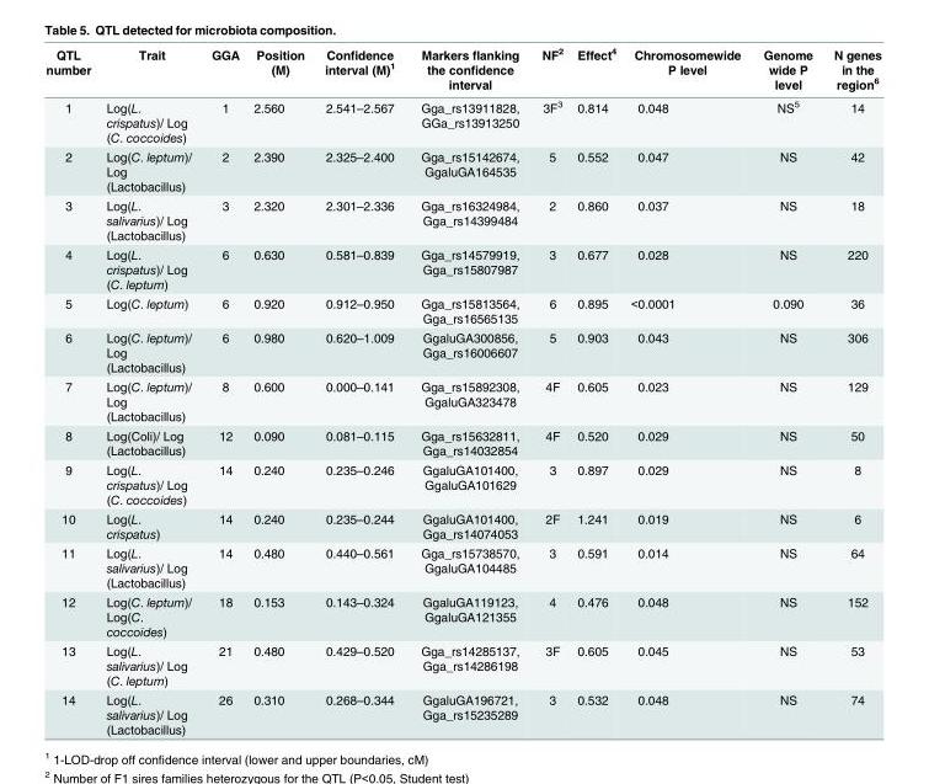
<table><thead><tr><td>QTL number</td><td>Trait</td><td>GGA</td><td>Position (M)</td><td>Confidence interval (M)<sup>1</sup></td><td>Markers flanking the confidence interval</td><td>NF<sup>2</sup></td><td>Effect<sup>4</sup></td><td>Chromosomewide P level</td><td>Genome wide P level</td><td>N genes in the region<sup>6</sup></td></tr></thead><tbody><tr><td>1</td><td>Log(L. crispatus)/ Log (C. coccoides)</td><td>1</td><td>2.560</td><td>2.541–2.567</td><td>Gga_rs13911828, GGa_rs13913250</td><td>3F<sup>3</sup></td><td>0.814</td><td>0.048</td><td>NS<sup>5</sup></td><td>14</td></tr><tr><td>2</td><td>Log(C. leptum)/ Log (Lactobacillus)</td><td>2</td><td>2.390</td><td>2.325–2.400</td><td>Gga_rs15142674, GgaluGA164535</td><td>5</td><td>0.552</td><td>0.047</td><td>NS</td><td>42</td></tr><tr><td>3</td><td>Log(L. salivarius)/ Log (Lactobacillus)</td><td>3</td><td>2.320</td><td>2.301–2.336</td><td>Gga_rs16324984, Gga_rs14399484</td><td>2</td><td>0.860</td><td>0.037</td><td>NS</td><td>18</td></tr><tr><td>4</td><td>Log(L. crispatus)/ Log (C. leptum)</td><td>6</td><td>0.630</td><td>0.581–0.839</td><td>Gga_rs14579919, Gga_rs15807987</td><td>3</td><td>0.677</td><td>0.028</td><td>NS</td><td>220</td></tr><tr><td>5</td><td>Log(C. leptum)</td><td>6</td><td>0.920</td><td>0.912–0.950</td><td>Gga_rs15813564, Gga_rs16565135</td><td>6</td><td>0.895</td><td>&lt;0.0001</td><td>0.090</td><td>36</td></tr><tr><td>6</td><td>Log(C. leptum)/ Log (Lactobacillus)</td><td>6</td><td>0.980</td><td>0.620–1.009</td><td>GgaluGA300856, Gga_rs16006607</td><td>5</td><td>0.903</td><td>0.043</td><td>NS</td><td>306</td></tr><tr><td>7</td><td>Log(C. leptum)/ Log (Lactobacillus)</td><td>8</td><td>0.600</td><td>0.000–0.141</td><td>Gga_rs15892308, GgaluGA323478</td><td>4F</td><td>0.605</td><td>0.023</td><td>NS</td><td>129</td></tr><tr><td>8</td><td>Log(Coli)/ Log (Lactobacillus)</td><td>12</td><td>0.090</td><td>0.081–0.115</td><td>Gga_rs15632811, Gga_rs14032854</td><td>4F</td><td>0.520</td><td>0.029</td><td>NS</td><td>50</td></tr><tr><td>9</td><td>Log(L. crispatus)/ Log (C. coccoides)</td><td>14</td><td>0.240</td><td>0.235–0.246</td><td>GgaluGA101400, GgaluGA101629</td><td>3</td><td>0.897</td><td>0.029</td><td>NS</td><td>8</td></tr><tr><td>10</td><td>Log(L. crispatus)</td><td>14</td><td>0.240</td><td>0.235–0.244</td><td>GgaluGA101400, Gga_rs14074053</td><td>2F</td><td>1.241</td><td>0.019</td><td>NS</td><td>6</td></tr><tr><td>11</td><td>Log(L. salivarius)/ Log (Lactobacillus)</td><td>14</td><td>0.480</td><td>0.440–0.561</td><td>Gga_rs15738570, GgaluGA104485</td><td>3</td><td>0.591</td><td>0.014</td><td>NS</td><td>64</td></tr><tr><td>12</td><td>Log(C. leptum)/ Log(C. coccoides)</td><td>18</td><td>0.153</td><td>0.143–0.324</td><td>GgaluGA119123, GgaluGA121355</td><td>4</td><td>0.476</td><td>0.048</td><td>NS</td><td>152</td></tr><tr><td>13</td><td>Log(L. salivarius)/ Log (C. leptum)</td><td>21</td><td>0.480</td><td>0.429–0.520</td><td>Gga_rs14285137, Gga_rs14286198</td><td>3F</td><td>0.605</td><td>0.045</td><td>NS</td><td>53</td></tr><tr><td>14</td><td>Log(L. salivarius)/ Log (Lactobacillus)</td><td>26</td><td>0.310</td><td>0.268–0.344</td><td>GgaluGA196721, Gga_rs15235289</td><td>3</td><td>0.532</td><td>0.048</td><td>NS</td><td>74</td></tr></tbody></table>